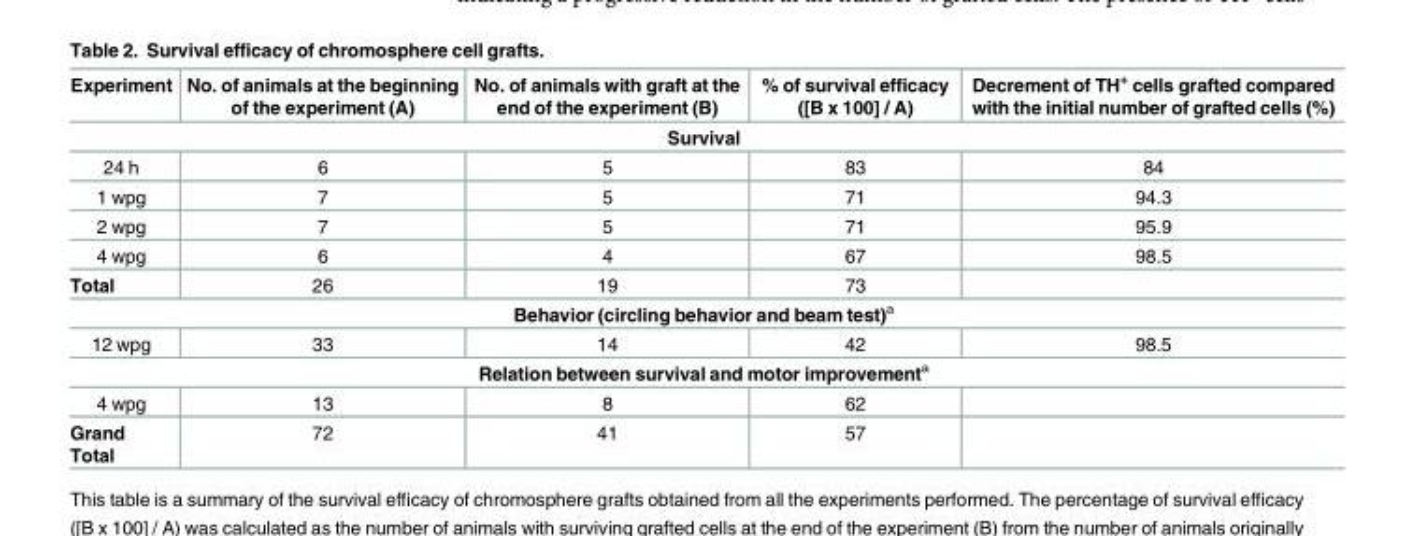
<table><thead><tr><td>Experiment</td><td>No. of animals at the beginning of the experiment (A)</td><td>No. of animals with graft at the end of the experiment (B)</td><td>% of survival efficacy ([B x 100] / A)</td><td>Decrement of TH<sup>+</sup> cells grafted compared with the initial number of grafted cells (%)</td></tr></thead><tbody><tr><td colspan="5">Survival</td></tr><tr><td>24 h</td><td>6</td><td>5</td><td>83</td><td>84</td></tr><tr><td>1 wpg</td><td>7</td><td>5</td><td>71</td><td>94.3</td></tr><tr><td>2 wpg</td><td>7</td><td>5</td><td>71</td><td>95.9</td></tr><tr><td>4 wpg</td><td>6</td><td>4</td><td>67</td><td>98.5</td></tr><tr><td>Total</td><td>26</td><td>19</td><td>73</td><td></td></tr><tr><td colspan="5">Behavior (circling behavior and beam test)<sup>a</sup></td></tr><tr><td>12 wpg</td><td>33</td><td>14</td><td>42</td><td>98.5</td></tr><tr><td colspan="5">Relation between survival and motor improvement<sup>a</sup></td></tr><tr><td>4 wpg</td><td>13</td><td>8</td><td>62</td><td></td></tr><tr><td>Grand Total</td><td>72</td><td>41</td><td>57</td><td></td></tr></tbody></table>